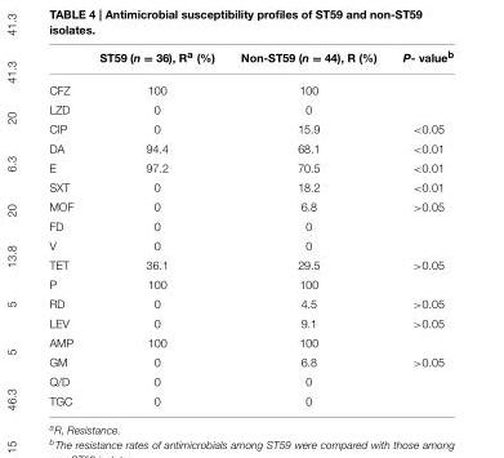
<table><thead><tr><td></td><td>ST59 (n = 36), R<sup>a</sup> (%)</td><td>Non-ST59 (n = 44), R (%)</td><td>P- value<sup>b</sup></td></tr></thead><tbody><tr><td>CFZ</td><td>100</td><td>100</td><td></td></tr><tr><td>LZD</td><td>0</td><td>0</td><td></td></tr><tr><td>CIP</td><td>0</td><td>15.9</td><td>&lt;0.05</td></tr><tr><td>DA</td><td>94.4</td><td>68.1</td><td>&lt;0.01</td></tr><tr><td>E</td><td>97.2</td><td>70.5</td><td>&lt;0.01</td></tr><tr><td>SXT</td><td>0</td><td>18.2</td><td>&lt;0.01</td></tr><tr><td>MOF</td><td>0</td><td>6.8</td><td>&gt;0.05</td></tr><tr><td>FD</td><td>0</td><td>0</td><td></td></tr><tr><td>V</td><td>0</td><td>0</td><td></td></tr><tr><td>TET</td><td>36.1</td><td>29.5</td><td>&gt;0.05</td></tr><tr><td>P</td><td>100</td><td>100</td><td></td></tr><tr><td>RD</td><td>0</td><td>4.5</td><td>&gt;0.05</td></tr><tr><td>LEV</td><td>0</td><td>9.1</td><td>&gt;0.05</td></tr><tr><td>AMP</td><td>100</td><td>100</td><td></td></tr><tr><td>GM</td><td>0</td><td>6.8</td><td>&gt;0.05</td></tr><tr><td>Q/D</td><td>0</td><td>0</td><td></td></tr><tr><td>TGC</td><td>0</td><td>0</td><td></td></tr></tbody></table>